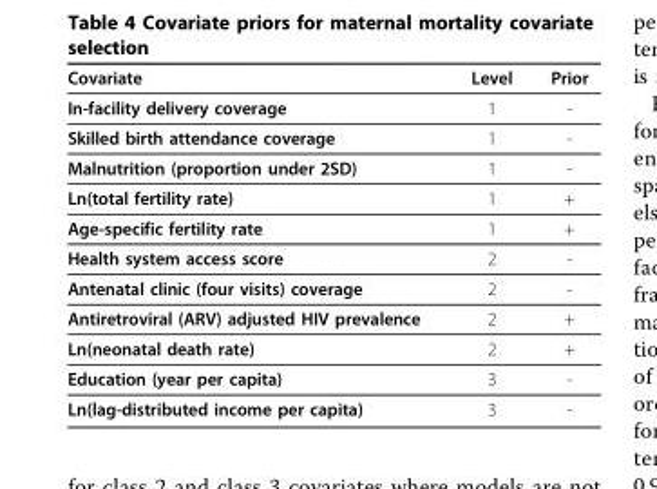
<table><thead><tr><td>Covariate</td><td>Level</td><td>Prior</td></tr></thead><tbody><tr><td>In-facility delivery coverage</td><td>1</td><td>-</td></tr><tr><td>Skilled birth attendance coverage</td><td>1</td><td>-</td></tr><tr><td>Malnutrition (proportion under 2SD)</td><td>1</td><td>-</td></tr><tr><td>Ln(total fertility rate)</td><td>1</td><td>+</td></tr><tr><td>Age-specific fertility rate</td><td>1</td><td>+</td></tr><tr><td>Health system access score</td><td>2</td><td>-</td></tr><tr><td>Antenatal clinic (four visits) coverage</td><td>2</td><td>-</td></tr><tr><td>Antiretroviral (ARV) adjusted HIV prevalence</td><td>2</td><td>+</td></tr><tr><td>Ln(neonatal death rate)</td><td>2</td><td>+</td></tr><tr><td>Education (year per capita)</td><td>3</td><td>-</td></tr><tr><td>Ln(lag-distributed income per capita)</td><td>3</td><td>-</td></tr></tbody></table>